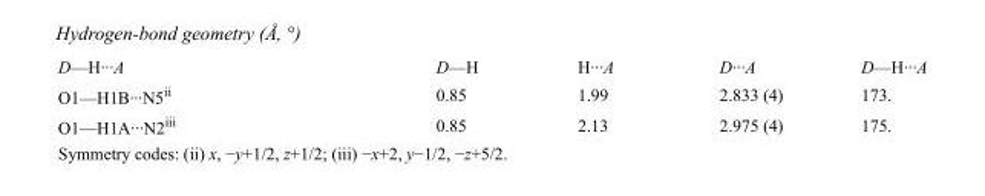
<table><tbody><tr><td>D—H···A</td><td>D—H</td><td>H···A</td><td>D···A</td><td>D—H···A</td></tr><tr><td>O1—H1B···N5<sup>ii</sup></td><td>0.85</td><td>1.99</td><td>2.833 (4)</td><td>173.</td></tr><tr><td>O1—H1A···N2<sup>iii</sup></td><td>0.85</td><td>2.13</td><td>2.975 (4)</td><td>175.</td></tr></tbody></table>